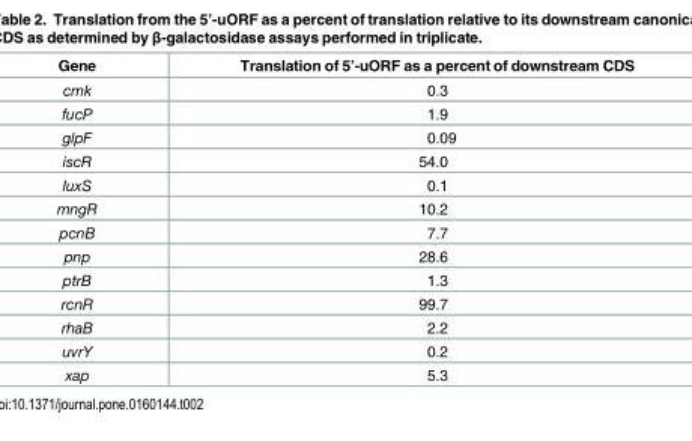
<table><thead><tr><td>Gene</td><td>Translation of 5’-uORF as a percent of downstream CDS</td></tr></thead><tbody><tr><td>cmk</td><td>0.3</td></tr><tr><td>fucP</td><td>1.9</td></tr><tr><td>glpF</td><td>0.09</td></tr><tr><td>iscR</td><td>54.0</td></tr><tr><td>luxS</td><td>0.1</td></tr><tr><td>mngR</td><td>10.2</td></tr><tr><td>pcnB</td><td>7.7</td></tr><tr><td>pnp</td><td>28.6</td></tr><tr><td>ptrB</td><td>1.3</td></tr><tr><td>rcnR</td><td>99.7</td></tr><tr><td>rhaB</td><td>2.2</td></tr><tr><td>uvrY</td><td>0.2</td></tr><tr><td>xap</td><td>5.3</td></tr></tbody></table>